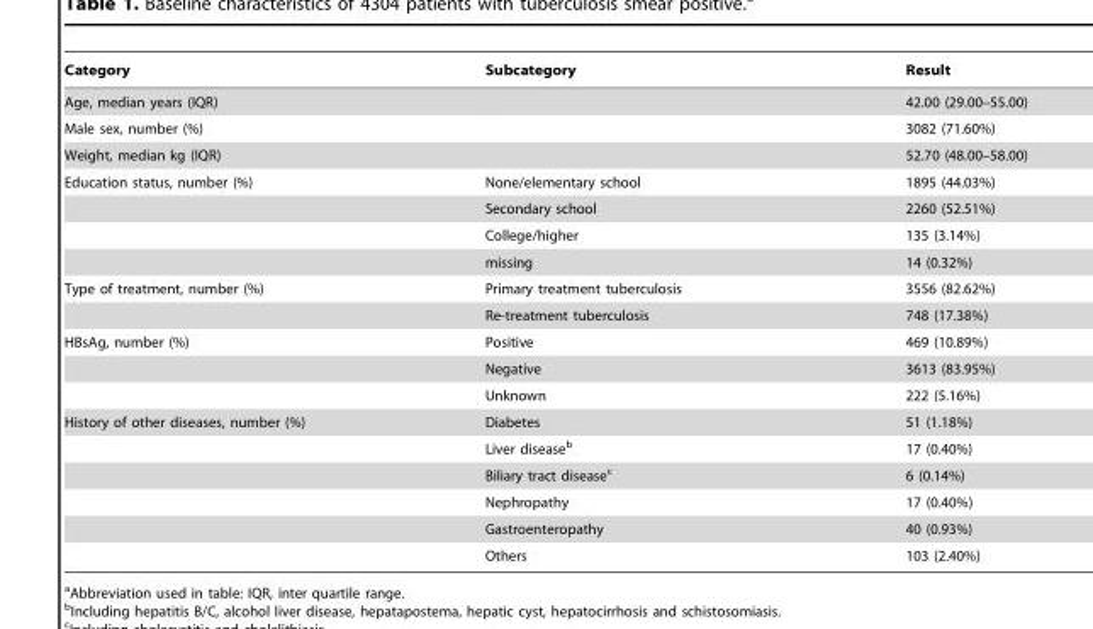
<table><thead><tr><td>Category</td><td>Subcategory</td><td>Result</td></tr></thead><tbody><tr><td>Age, median years (IQR)</td><td></td><td>42.00 (29.00–55.00)</td></tr><tr><td>Male sex, number (%)</td><td></td><td>3082 (71.60%)</td></tr><tr><td>Weight, median kg (IQR)</td><td></td><td>52.70 (48.00–58.00)</td></tr><tr><td rowspan="4">Education status, number (%)</td><td>None/elementary school</td><td>1895 (44.03%)</td></tr><tr><td>Secondary school</td><td>2260 (52.51%)</td></tr><tr><td>College/higher</td><td>135 (3.14%)</td></tr><tr><td>missing</td><td>14 (0.32%)</td></tr><tr><td rowspan="2">Type of treatment, number (%)</td><td>Primary treatment tuberculosis</td><td>3556 (82.62%)</td></tr><tr><td>Re-treatment tuberculosis</td><td>748 (17.38%)</td></tr><tr><td rowspan="3">HBsAg, number (%)</td><td>Positive</td><td>469 (10.89%)</td></tr><tr><td>Negative</td><td>3613 (83.95%)</td></tr><tr><td>Unknown</td><td>222 (5.16%)</td></tr><tr><td rowspan="6">History of other diseases, number (%)</td><td>Diabetes</td><td>51 (1.18%)</td></tr><tr><td>Liver disease<sup>b</sup></td><td>17 (0.40%)</td></tr><tr><td>Biliary tract disease<sup>c</sup></td><td>6 (0.14%)</td></tr><tr><td>Nephropathy</td><td>17 (0.40%)</td></tr><tr><td>Gastroenteropathy</td><td>40 (0.93%)</td></tr><tr><td>Others</td><td>103 (2.40%)</td></tr></tbody></table>